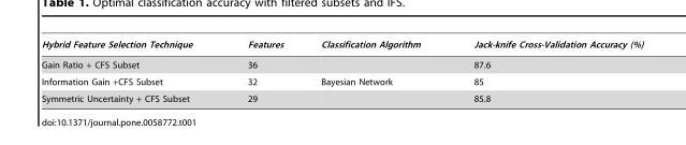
<table><thead><tr><td>Hybrid Feature Selection Technique</td><td>Features</td><td>Classification Algorithm</td><td>Jack-knife Cross-Validation Accuracy (%)</td></tr></thead><tbody><tr><td>Gain Ratio + CFS Subset</td><td>36</td><td></td><td>87.6</td></tr><tr><td>Information Gain +CFS Subset</td><td>32</td><td>Bayesian Network</td><td>85</td></tr><tr><td>Symmetric Uncertainty + CFS Subset</td><td>29</td><td></td><td>85.8</td></tr></tbody></table>